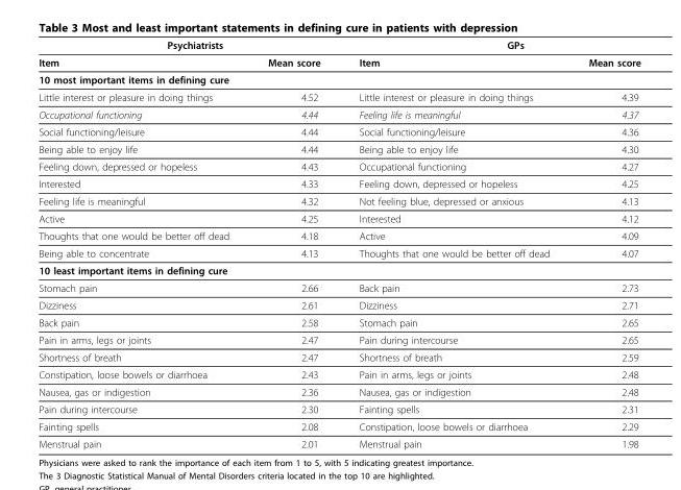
<table><thead><tr><td colspan="2">Psychiatrists</td><td colspan="2">GPs</td></tr><tr><td>Item</td><td>Mean score</td><td>Item</td><td>Mean score</td></tr></thead><tbody><tr><td colspan="4">10 most important items in defining cure</td></tr><tr><td>Little interest or pleasure in doing things</td><td>4.52</td><td>Little interest or pleasure in doing things</td><td>4.39</td></tr><tr><td>Occupational functioning</td><td>4.44</td><td>Feeling life is meaningful</td><td>4.37</td></tr><tr><td>Social functioning/leisure</td><td>4.44</td><td>Social functioning/leisure</td><td>4.36</td></tr><tr><td>Being able to enjoy life</td><td>4.44</td><td>Being able to enjoy life</td><td>4.30</td></tr><tr><td>Feeling down, depressed or hopeless</td><td>4.43</td><td>Occupational functioning</td><td>4.27</td></tr><tr><td>Interested</td><td>4.33</td><td>Feeling down, depressed or hopeless</td><td>4.25</td></tr><tr><td>Feeling life is meaningful</td><td>4.32</td><td>Not feeling blue, depressed or anxious</td><td>4.13</td></tr><tr><td>Active</td><td>4.25</td><td>Interested</td><td>4.12</td></tr><tr><td>Thoughts that one would be better off dead</td><td>4.18</td><td>Active</td><td>4.09</td></tr><tr><td>Being able to concentrate</td><td>4.13</td><td>Thoughts that one would be better off dead</td><td>4.07</td></tr><tr><td colspan="4">10 least important items in defining cure</td></tr><tr><td>Stomach pain</td><td>2.66</td><td>Back pain</td><td>2.73</td></tr><tr><td>Dizziness</td><td>2.61</td><td>Dizziness</td><td>2.71</td></tr><tr><td>Back pain</td><td>2.58</td><td>Stomach pain</td><td>2.65</td></tr><tr><td>Pain in arms, legs or joints</td><td>2.47</td><td>Pain during intercourse</td><td>2.65</td></tr><tr><td>Shortness of breath</td><td>2.47</td><td>Shortness of breath</td><td>2.59</td></tr><tr><td>Constipation, loose bowels or diarrhoea</td><td>2.43</td><td>Pain in arms, legs or joints</td><td>2.48</td></tr><tr><td>Nausea, gas or indigestion</td><td>2.36</td><td>Nausea, gas or indigestion</td><td>2.48</td></tr><tr><td>Pain during intercourse</td><td>2.30</td><td>Fainting spells</td><td>2.31</td></tr><tr><td>Fainting spells</td><td>2.08</td><td>Constipation, loose bowels or diarrhoea</td><td>2.29</td></tr><tr><td>Menstrual pain</td><td>2.01</td><td>Menstrual pain</td><td>1.98</td></tr></tbody></table>